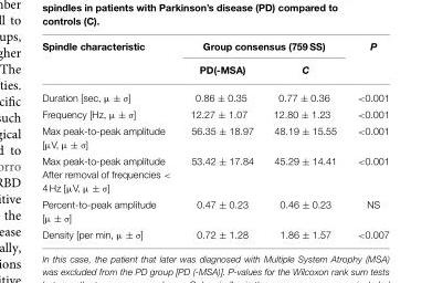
<table><thead><tr><td rowspan="2">Spindle characteristic</td><td colspan="2">Group consensus (759 SS)</td><td rowspan="2">P</td></tr><tr><td>PD(-MSA)</td><td>C</td></tr></thead><tbody><tr><td>Duration [sec, µ ± σ]</td><td>0.86 ± 0.35</td><td>0.77 ± 0.36</td><td>&lt;0.001</td></tr><tr><td>Frequency [Hz, µ ± σ]</td><td>12.27 ± 1.07</td><td>12.80 ± 1.23</td><td>&lt;0.001</td></tr><tr><td>Max peak-to-peak amplitude [µV, µ ± σ]</td><td>56.35 ± 18.97</td><td>48.19 ± 15.55</td><td>&lt;0.001</td></tr><tr><td>Max peak-to-peak amplitude After removal of frequencies &lt; 4 Hz [µV, µ ± σ]</td><td>53.42 ± 17.84</td><td>45.29 ± 14.41</td><td>&lt;0.001</td></tr><tr><td>Percent-to-peak amplitude [µ ± σ]</td><td>0.47 ± 0.23</td><td>0.46 ± 0.23</td><td>NS</td></tr><tr><td>Density [per min, µ ± σ]</td><td>0.72 ± 1.28</td><td>1.86 ± 1.57</td><td>&lt;0.007</td></tr></tbody></table>